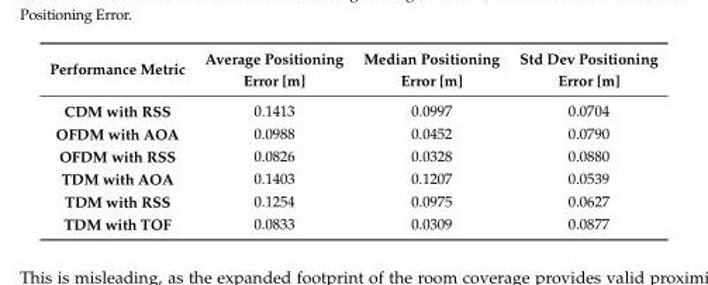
<table><thead><tr><td>Performance Metric</td><td>Average Positioning Error [m]</td><td>Median Positioning Error [m]</td><td>Std Dev Positioning Error [m]</td></tr></thead><tbody><tr><td>CDM with RSS</td><td>0.1413</td><td>0.0997</td><td>0.0704</td></tr><tr><td>OFDM with AOA</td><td>0.0988</td><td>0.0452</td><td>0.0790</td></tr><tr><td>OFDM with RSS</td><td>0.0826</td><td>0.0328</td><td>0.0880</td></tr><tr><td>TDM with AOA</td><td>0.1403</td><td>0.1207</td><td>0.0539</td></tr><tr><td>TDM with RSS</td><td>0.1254</td><td>0.0975</td><td>0.0627</td></tr><tr><td>TDM with TOF</td><td>0.0833</td><td>0.0309</td><td>0.0877</td></tr></tbody></table>